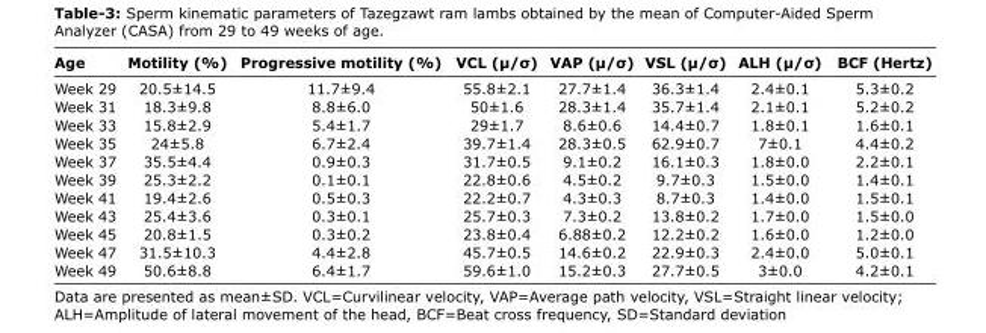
<table><thead><tr><td>Age</td><td>Motility (%)</td><td>Progressive motility (%)</td><td>VCL (μ/σ)</td><td>VAP (μ/σ)</td><td>VSL (μ/σ)</td><td>ALH (μ/σ)</td><td>BCF (Hertz)</td></tr></thead><tbody><tr><td>Week 29</td><td>20.5±14.5</td><td>11.7±9.4</td><td>55.8±2.1</td><td>27.7±1.4</td><td>36.3±1.4</td><td>2.4±0.1</td><td>5.3±0.2</td></tr><tr><td>Week 31</td><td>18.3±9.8</td><td>8.8±6.0</td><td>50±1.6</td><td>28.3±1.4</td><td>35.7±1.4</td><td>2.1±0.1</td><td>5.2±0.2</td></tr><tr><td>Week 33</td><td>15.8±2.9</td><td>5.4±1.7</td><td>29±1.7</td><td>8.6±0.6</td><td>14.4±0.7</td><td>1.8±0.1</td><td>1.6±0.1</td></tr><tr><td>Week 35</td><td>24±5.8</td><td>6.7±2.4</td><td>39.7±1.4</td><td>28.3±0.5</td><td>62.9±0.7</td><td>7±0.1</td><td>4.4±0.2</td></tr><tr><td>Week 37</td><td>35.5±4.4</td><td>0.9±0.3</td><td>31.7±0.5</td><td>9.1±0.2</td><td>16.1±0.3</td><td>1.8±0.0</td><td>2.2±0.1</td></tr><tr><td>Week 39</td><td>25.3±2.2</td><td>0.1±0.1</td><td>22.8±0.6</td><td>4.5±0.2</td><td>9.7±0.3</td><td>1.5±0.0</td><td>1.4±0.1</td></tr><tr><td>Week 41</td><td>19.4±2.6</td><td>0.5±0.3</td><td>22.2±0.7</td><td>4.3±0.3</td><td>8.7±0.3</td><td>1.4±0.0</td><td>1.5±0.1</td></tr><tr><td>Week 43</td><td>25.4±3.6</td><td>0.3±0.1</td><td>25.7±0.3</td><td>7.3±0.2</td><td>13.8±0.2</td><td>1.7±0.0</td><td>1.5±0.0</td></tr><tr><td>Week 45</td><td>20.8±1.5</td><td>0.3±0.2</td><td>23.8±0.4</td><td>6.88±0.2</td><td>12.2±0.2</td><td>1.6±0.0</td><td>1.2±0.0</td></tr><tr><td>Week 47</td><td>31.5±10.3</td><td>4.4±2.8</td><td>45.7±0.5</td><td>14.6±0.2</td><td>22.9±0.3</td><td>2.4±0.0</td><td>5.0±0.1</td></tr><tr><td>Week 49</td><td>50.6±8.8</td><td>6.4±1.7</td><td>59.6±1.0</td><td>15.2±0.3</td><td>27.7±0.5</td><td>3±0.0</td><td>4.2±0.1</td></tr></tbody></table>